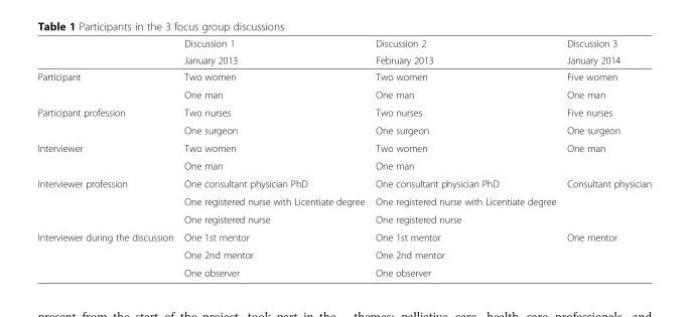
<table><thead><tr><td rowspan="2"></td><td rowspan="2">Discussion 1 January 2013</td><td rowspan="2">Discussion 2 February 2013</td><td rowspan="2">Discussion 3 January 2014</td></tr><tr></tr></thead><tbody><tr><td rowspan="2">Participant</td><td>Two women</td><td>Two women</td><td>Five women</td></tr><tr><td>One man</td><td>One man</td><td>One man</td></tr><tr><td rowspan="2">Participant profession</td><td>Two nurses</td><td>Two nurses</td><td>Five nurses</td></tr><tr><td>One surgeon</td><td>One surgeon</td><td>One surgeon</td></tr><tr><td rowspan="2">Interviewer</td><td>Two women</td><td>Two women</td><td rowspan="2">One man</td></tr><tr><td>One man</td><td>One man</td></tr><tr><td rowspan="3">Interviewer profession</td><td>One consultant physician PhD</td><td>One consultant physician PhD</td><td rowspan="3">Consultant physician</td></tr><tr><td>One registered nurse with Licentiate degree</td><td>One registered nurse with Licentiate degree</td></tr><tr><td>One registered nurse</td><td>One registered nurse</td></tr><tr><td rowspan="3">Interviewer during the discussion</td><td>One 1st mentor</td><td>One 1st mentor</td><td rowspan="3">One mentor</td></tr><tr><td>One 2nd mentor</td><td>One 2nd mentor</td></tr><tr><td>One observer</td><td>One observer</td></tr></tbody></table>